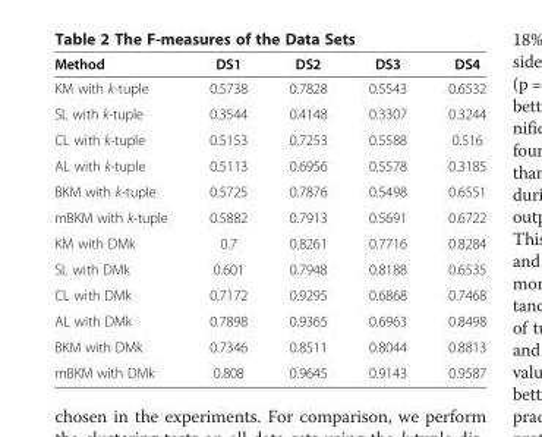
<table><thead><tr><td>Method</td><td>DS1</td><td>DS2</td><td>DS3</td><td>DS4</td></tr></thead><tbody><tr><td>KM with k-tuple</td><td>0.5738</td><td>0.7828</td><td>0.5543</td><td>0.6532</td></tr><tr><td>SL with k-tuple</td><td>0.3544</td><td>0.4148</td><td>0.3307</td><td>0.3244</td></tr><tr><td>CL with k-tuple</td><td>0.5153</td><td>0.7253</td><td>0.5588</td><td>0.516</td></tr><tr><td>AL with k-tuple</td><td>0.5113</td><td>0.6956</td><td>0.5578</td><td>0.3185</td></tr><tr><td>BKM with k-tuple</td><td>0.5725</td><td>0.7876</td><td>0.5498</td><td>0.6551</td></tr><tr><td>mBKM with k-tuple</td><td>0.5882</td><td>0.7913</td><td>0.5691</td><td>0.6722</td></tr><tr><td>KM with DMk</td><td>0.7</td><td>0.8261</td><td>0.7716</td><td>0.8284</td></tr><tr><td>SL with DMk</td><td>0.601</td><td>0.7948</td><td>0.8188</td><td>0.6535</td></tr><tr><td>CL with DMk</td><td>0.7172</td><td>0.9295</td><td>0.6868</td><td>0.7468</td></tr><tr><td>AL with DMk</td><td>0.7898</td><td>0.9365</td><td>0.6963</td><td>0.8498</td></tr><tr><td>BKM with DMk</td><td>0.7346</td><td>0.8511</td><td>0.8044</td><td>0.8813</td></tr><tr><td>mBKM with DMk</td><td>0.808</td><td>0.9645</td><td>0.9143</td><td>0.9587</td></tr></tbody></table>